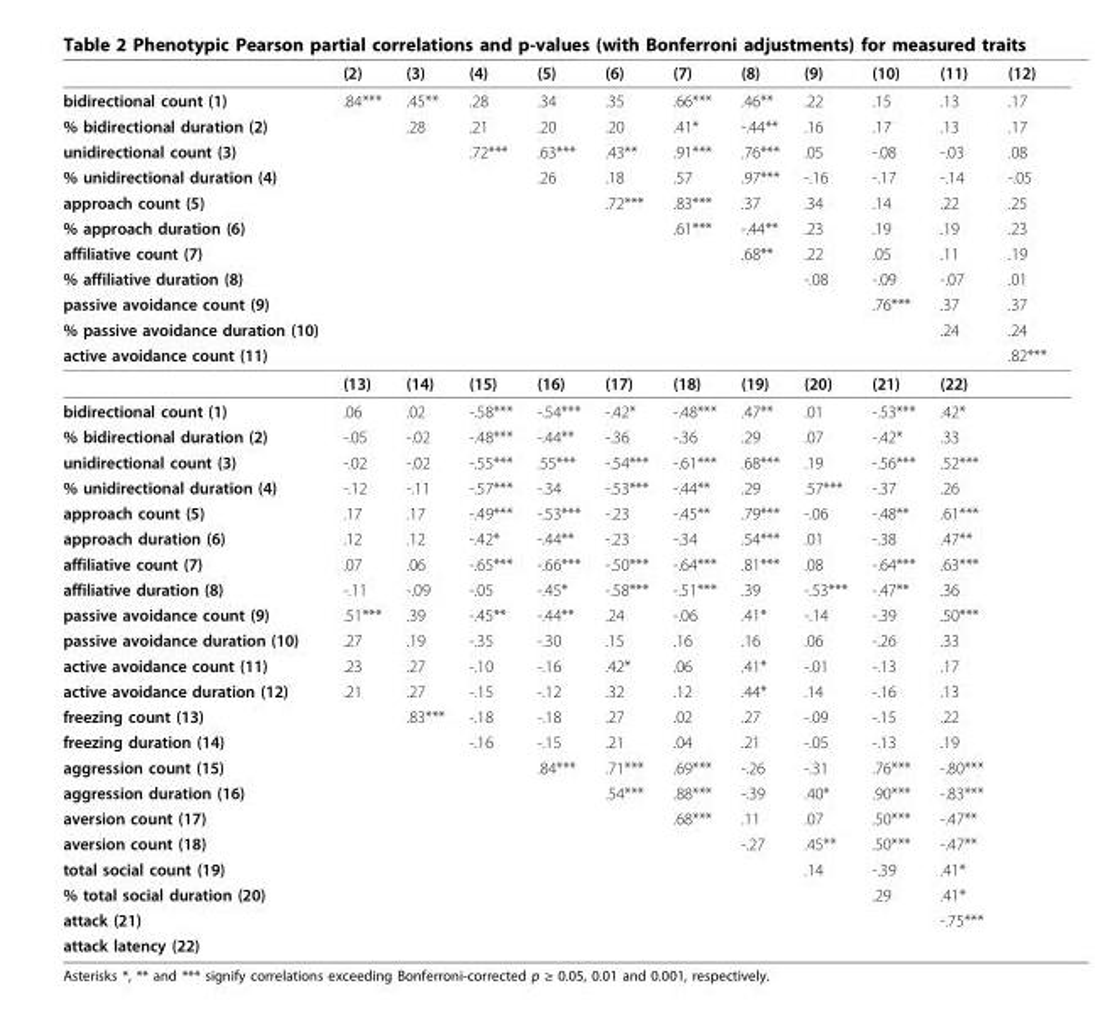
<table><thead><tr><td></td><td>(2)</td><td>(3)</td><td>(4)</td><td>(5)</td><td>(6)</td><td>(7)</td><td>(8)</td><td>(9)</td><td>(10)</td><td>(11)</td><td>(12)</td></tr></thead><tbody><tr><td>bidirectional count (1)</td><td>.84***</td><td>.45**</td><td>.28</td><td>.34</td><td>.35</td><td>.66***</td><td>.46**</td><td>.22</td><td>.15</td><td>.13</td><td>.17</td></tr><tr><td>% bidirectional duration (2)</td><td></td><td>.28</td><td>.21</td><td>.20</td><td>.20</td><td>.41*</td><td>-.44**</td><td>.16</td><td>.17</td><td>.13</td><td>.17</td></tr><tr><td>unidirectional count (3)</td><td></td><td></td><td>.72***</td><td>.63***</td><td>.43**</td><td>.91***</td><td>.76***</td><td>.05</td><td>-.08</td><td>-.03</td><td>.08</td></tr><tr><td>% unidirectional duration (4)</td><td></td><td></td><td></td><td>.26</td><td>.18</td><td>.57</td><td>.97***</td><td>-.16</td><td>-.17</td><td>-.14</td><td>-.05</td></tr><tr><td>approach count (5)</td><td></td><td></td><td></td><td></td><td>.72***</td><td>.83***</td><td>.37</td><td>.34</td><td>.14</td><td>.22</td><td>.25</td></tr><tr><td>% approach duration (6)</td><td></td><td></td><td></td><td></td><td></td><td>.61***</td><td>-.44**</td><td>.23</td><td>.19</td><td>.19</td><td>.23</td></tr><tr><td>affiliative count (7)</td><td></td><td></td><td></td><td></td><td></td><td></td><td>.68**</td><td>.22</td><td>.05</td><td>.11</td><td>.19</td></tr><tr><td>% affiliative duration (8)</td><td></td><td></td><td></td><td></td><td></td><td></td><td></td><td>-.08</td><td>-.09</td><td>-.07</td><td>.01</td></tr><tr><td>passive avoidance count (9)</td><td></td><td></td><td></td><td></td><td></td><td></td><td></td><td></td><td>.76***</td><td>.37</td><td>.37</td></tr><tr><td>% passive avoidance duration (10)</td><td></td><td></td><td></td><td></td><td></td><td></td><td></td><td></td><td></td><td>.24</td><td>.24</td></tr><tr><td rowspan="2">active avoidance count (11)</td><td></td><td></td><td></td><td></td><td></td><td></td><td></td><td></td><td></td><td></td><td>.82***</td></tr><tr><td>(13)</td><td>(14)</td><td>(15)</td><td>(16)</td><td>(17)</td><td>(18)</td><td>(19)</td><td>(20)</td><td>(21)</td><td>(22)</td><td></td></tr><tr><td>bidirectional count (1)</td><td>.06</td><td>.02</td><td>-.58***</td><td>-.54***</td><td>-.42*</td><td>-.48***</td><td>.47**</td><td>.01</td><td>-.53***</td><td>.42*</td><td></td></tr><tr><td>% bidirectional duration (2)</td><td>-.05</td><td>-.02</td><td>-.48***</td><td>-.44**</td><td>-.36</td><td>-.36</td><td>.29</td><td>.07</td><td>-.42*</td><td>.33</td><td></td></tr><tr><td>unidirectional count (3)</td><td>-.02</td><td>-.02</td><td>-.55***</td><td>.55***</td><td>-.54***</td><td>-.61***</td><td>.68***</td><td>.19</td><td>-.56***</td><td>.52***</td><td></td></tr><tr><td>% unidirectional duration (4)</td><td>-.12</td><td>-.11</td><td>-.57***</td><td>-.34</td><td>-.53***</td><td>-.44**</td><td>.29</td><td>.57***</td><td>-.37</td><td>.26</td><td></td></tr><tr><td>approach count (5)</td><td>.17</td><td>.17</td><td>-.49***</td><td>-.53***</td><td>-.23</td><td>-.45**</td><td>.79***</td><td>-.06</td><td>-.48**</td><td>.61***</td><td></td></tr><tr><td>approach duration (6)</td><td>.12</td><td>.12</td><td>-.42*</td><td>-.44**</td><td>-.23</td><td>-.34</td><td>.54***</td><td>.01</td><td>-.38</td><td>.47**</td><td></td></tr><tr><td>affiliative count (7)</td><td>.07</td><td>.06</td><td>-.65***</td><td>-.66***</td><td>-.50***</td><td>-.64***</td><td>.81***</td><td>.08</td><td>-.64***</td><td>.63***</td><td></td></tr><tr><td>affiliative duration (8)</td><td>-.11</td><td>-.09</td><td>-.05</td><td>-.45*</td><td>-.58***</td><td>-.51***</td><td>.39</td><td>-.53***</td><td>-.47**</td><td>.36</td><td></td></tr><tr><td>passive avoidance count (9)</td><td>.51***</td><td>.39</td><td>-.45**</td><td>-.44**</td><td>.24</td><td>-.06</td><td>.41*</td><td>-.14</td><td>-.39</td><td>.50***</td><td></td></tr><tr><td>passive avoidance duration (10)</td><td>.27</td><td>.19</td><td>-.35</td><td>-.30</td><td>.15</td><td>.16</td><td>.16</td><td>.06</td><td>-.26</td><td>.33</td><td></td></tr><tr><td>active avoidance count (11)</td><td>.23</td><td>.27</td><td>-.10</td><td>-.16</td><td>.42*</td><td>.06</td><td>.41*</td><td>-.01</td><td>-.13</td><td>.17</td><td></td></tr><tr><td>active avoidance duration (12)</td><td>.21</td><td>.27</td><td>-.15</td><td>-.12</td><td>.32</td><td>.12</td><td>.44*</td><td>.14</td><td>-.16</td><td>.13</td><td></td></tr><tr><td>freezing count (13)</td><td></td><td>.83***</td><td>-.18</td><td>-.18</td><td>.27</td><td>.02</td><td>.27</td><td>-.09</td><td>-.15</td><td>.22</td><td></td></tr><tr><td>freezing duration (14)</td><td></td><td></td><td>-.16</td><td>-.15</td><td>.21</td><td>.04</td><td>.21</td><td>-.05</td><td>-.13</td><td>.19</td><td></td></tr><tr><td>aggression count (15)</td><td></td><td></td><td></td><td>.84***</td><td>.71***</td><td>.69***</td><td>-.26</td><td>-.31</td><td>.76***</td><td>-.80***</td><td></td></tr><tr><td>aggression duration (16)</td><td></td><td></td><td></td><td></td><td>.54***</td><td>.88***</td><td>-.39</td><td>.40*</td><td>.90***</td><td>-.83***</td><td></td></tr><tr><td>aversion count (17)</td><td></td><td></td><td></td><td></td><td></td><td>.68***</td><td>.11</td><td>.07</td><td>.50***</td><td>-.47**</td><td></td></tr><tr><td>aversion count (18)</td><td></td><td></td><td></td><td></td><td></td><td></td><td>-.27</td><td>.45**</td><td>.50***</td><td>-.47**</td><td></td></tr><tr><td>total social count (19)</td><td></td><td></td><td></td><td></td><td></td><td></td><td></td><td>.14</td><td>-.39</td><td>.41*</td><td></td></tr><tr><td>% total social duration (20)</td><td></td><td></td><td></td><td></td><td></td><td></td><td></td><td></td><td>.29</td><td>.41*</td><td></td></tr><tr><td>attack (21)</td><td></td><td></td><td></td><td></td><td></td><td></td><td></td><td></td><td></td><td>-.75***</td><td></td></tr><tr><td>attack latency (22)</td><td></td><td></td><td></td><td></td><td></td><td></td><td></td><td></td><td></td><td></td><td></td></tr></tbody></table>